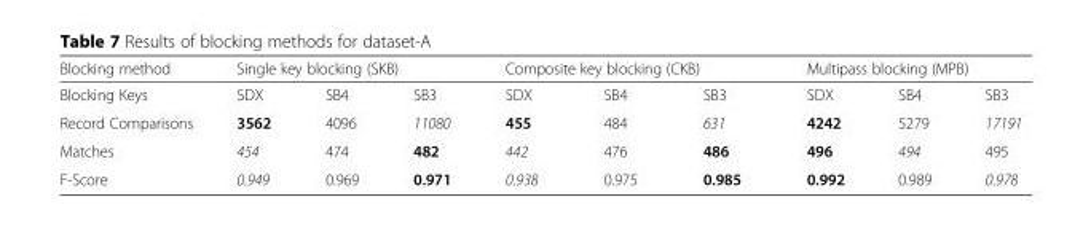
<table><thead><tr><td rowspan="2">Blocking method Blocking Keys</td><td colspan="3">Single key blocking (SKB)</td><td colspan="3">Composite key blocking (CKB)</td><td colspan="3">Multipass blocking (MPB)</td></tr><tr><td>SDX</td><td>SB4</td><td>SB3</td><td>SDX</td><td>SB4</td><td>SB3</td><td>SDX</td><td>SB4</td><td>SB3</td></tr></thead><tbody><tr><td>Record Comparisons</td><td>3562</td><td>4096</td><td>11080</td><td>455</td><td>484</td><td>631</td><td>4242</td><td>5279</td><td>17191</td></tr><tr><td>Matches</td><td>454</td><td>474</td><td>482</td><td>442</td><td>476</td><td>486</td><td>496</td><td>494</td><td>495</td></tr><tr><td>F-Score</td><td>0.949</td><td>0.969</td><td>0.971</td><td>0.938</td><td>0.975</td><td>0.985</td><td>0.992</td><td>0.989</td><td>0.978</td></tr></tbody></table>